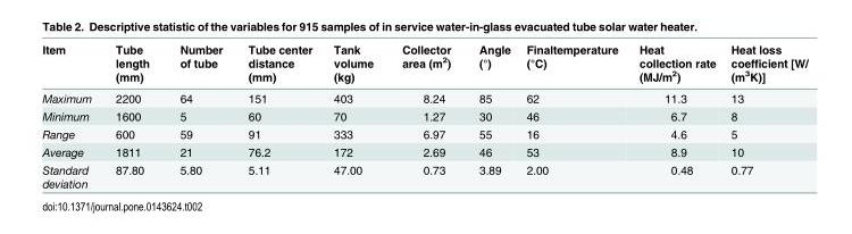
<table><thead><tr><td>Item</td><td>Tube length (mm)</td><td>Number of tube</td><td>Tube center distance (mm)</td><td>Tank volume (kg)</td><td>Collector area (m<sup>2</sup>)</td><td>Angle (°)</td><td>Finaltemperature (°C)</td><td>Heat collection rate (MJ/m<sup>2</sup>)</td><td>Heat loss coefficient [W/ (m<sup>3</sup>K)]</td></tr></thead><tbody><tr><td>Maximum</td><td>2200</td><td>64</td><td>151</td><td>403</td><td>8.24</td><td>85</td><td>62</td><td>11.3</td><td>13</td></tr><tr><td>Minimum</td><td>1600</td><td>5</td><td>60</td><td>70</td><td>1.27</td><td>30</td><td>46</td><td>6.7</td><td>8</td></tr><tr><td>Range</td><td>600</td><td>59</td><td>91</td><td>333</td><td>6.97</td><td>55</td><td>16</td><td>4.6</td><td>5</td></tr><tr><td>Average</td><td>1811</td><td>21</td><td>76.2</td><td>172</td><td>2.69</td><td>46</td><td>53</td><td>8.9</td><td>10</td></tr><tr><td>Standard deviation</td><td>87.80</td><td>5.80</td><td>5.11</td><td>47.00</td><td>0.73</td><td>3.89</td><td>2.00</td><td>0.48</td><td>0.77</td></tr></tbody></table>